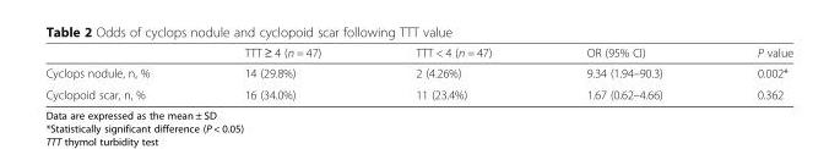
<table><thead><tr><td></td><td>TTT ≥ 4 (n = 47)</td><td>TTT &lt; 4 (n = 47)</td><td>OR (95% CI)</td><td>P value</td></tr></thead><tbody><tr><td>Cyclops nodule, n, %</td><td>14 (29.8%)</td><td>2 (4.26%)</td><td>9.34 (1.94–90.3)</td><td>0.002*</td></tr><tr><td>Cyclopoid scar, n, %</td><td>16 (34.0%)</td><td>11 (23.4%)</td><td>1.67 (0.62–4.66)</td><td>0.362</td></tr></tbody></table>